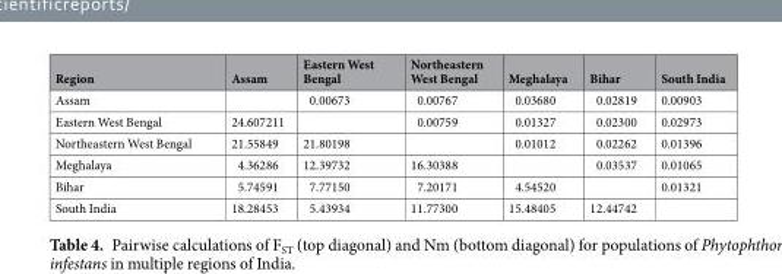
<table><thead><tr><td>Region</td><td>Assam</td><td>Eastern West Bengal</td><td>Northeastern West Bengal</td><td>Meghalaya</td><td>Bihar</td><td>South India</td></tr></thead><tbody><tr><td>Assam</td><td></td><td>0.00673</td><td>0.00767</td><td>0.03680</td><td>0.02819</td><td>0.00903</td></tr><tr><td>Eastern West Bengal</td><td>24.607211</td><td></td><td>0.00759</td><td>0.01327</td><td>0.02300</td><td>0.02973</td></tr><tr><td>Northeastern West Bengal</td><td>21.55849</td><td>21.80198</td><td></td><td>0.01012</td><td>0.02262</td><td>0.01396</td></tr><tr><td>Meghalaya</td><td>4.36286</td><td>12.39732</td><td>16.30388</td><td></td><td>0.03537</td><td>0.01065</td></tr><tr><td>Bihar</td><td>5.74591</td><td>7.77150</td><td>7.20171</td><td>4.54520</td><td></td><td>0.01321</td></tr><tr><td>South India</td><td>18.28453</td><td>5.43934</td><td>11.77300</td><td>15.48405</td><td>12.44742</td><td></td></tr></tbody></table>